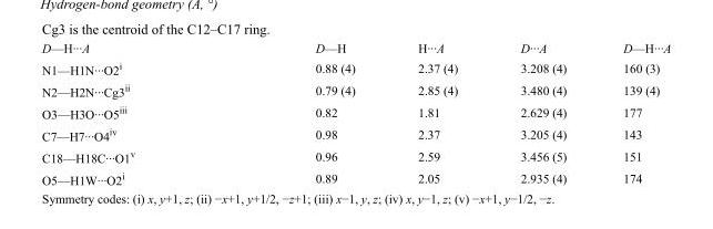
<table><tbody><tr><td>D—H···A</td><td>D—H</td><td>H···A</td><td>D···A</td><td>D—H···A</td></tr><tr><td>N1—H1N···O2<sup>i</sup></td><td>0.88 (4)</td><td>2.37 (4)</td><td>3.208 (4)</td><td>160 (3)</td></tr><tr><td>N2—H2N···Cg3<sup>ii</sup></td><td>0.79 (4)</td><td>2.85 (4)</td><td>3.480 (4)</td><td>139 (4)</td></tr><tr><td>O3—H3O···O5<sup>iii</sup></td><td>0.82</td><td>1.81</td><td>2.629 (4)</td><td>177</td></tr><tr><td>C7—H7···O4<sup>iv</sup></td><td>0.98</td><td>2.37</td><td>3.205 (4)</td><td>143</td></tr><tr><td>C18—H18C···O1<sup>v</sup></td><td>0.96</td><td>2.59</td><td>3.456 (5)</td><td>151</td></tr><tr><td>O5—H1W···O2<sup>i</sup></td><td>0.89</td><td>2.05</td><td>2.935 (4)</td><td>174</td></tr></tbody></table>